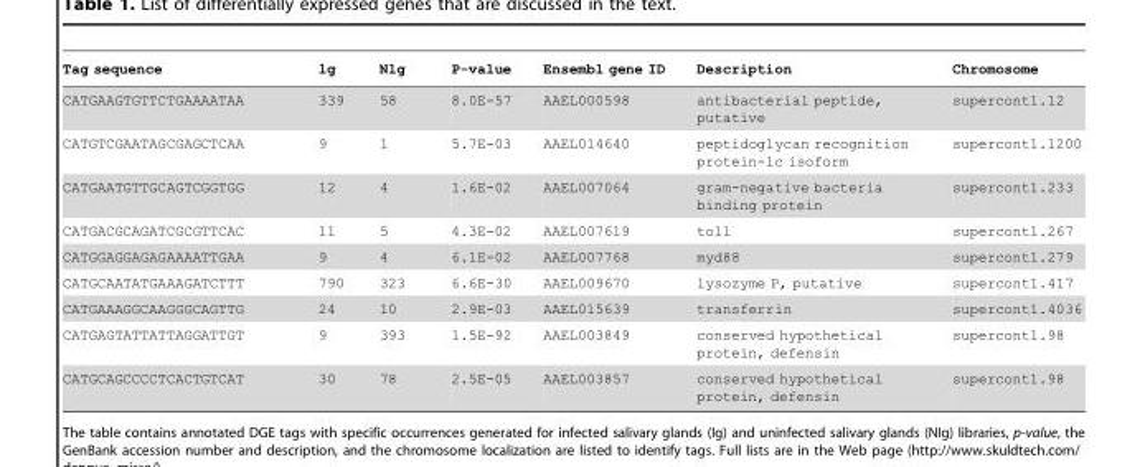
<table><thead><tr><td>Tag sequence</td><td>lg</td><td>Nlg</td><td>P-value</td><td>Ensembl gene ID</td><td>Description</td><td>Chromosome</td></tr></thead><tbody><tr><td>CATGAAGTGTTCTGAAAATAA</td><td>339</td><td>58</td><td>8.0E-57</td><td>AAEL000598</td><td>antibacterial peptide, putative</td><td>supercont1.12</td></tr><tr><td>CATGTCGAATAGCGAGCTCAA</td><td>9</td><td>1</td><td>5.7E-03</td><td>AAEL014640</td><td>peptidoglycan recognition protein-lc isoform</td><td>supercont1.1200</td></tr><tr><td>CATGAATGTTGCAGTCGGTGG</td><td>12</td><td>4</td><td>1.6E-02</td><td>AAEL007064</td><td>gram-negative bacteria binding protein</td><td>supercont1.233</td></tr><tr><td>CATGACGCAGATCGCGTTCAC</td><td>11</td><td>5</td><td>4.3E-02</td><td>AAEL007619</td><td>toll</td><td>supercont1.267</td></tr><tr><td>CATGGAGGAGAGAAAATTGAA</td><td>9</td><td>4</td><td>6.1E-02</td><td>AAEL007768</td><td>myd88</td><td>supercont1.279</td></tr><tr><td>CATGCAATATGAAAGATCTTT</td><td>790</td><td>323</td><td>6.6E-30</td><td>AAEL009670</td><td>lysozyme P, putative</td><td>supercont1.417</td></tr><tr><td>CATGAAAGGCAAGGGCAGTTG</td><td>24</td><td>10</td><td>2.9E-03</td><td>AAEL015639</td><td>transferrin</td><td>supercont1.4036</td></tr><tr><td>CATGAGTATTATTAGGATTGT</td><td>9</td><td>393</td><td>1.5E-92</td><td>AAEL003849</td><td>conserved hypothetical protein, defensin</td><td>supercont1.98</td></tr><tr><td>CATGCAGCCCCTCACTGTCAT</td><td>30</td><td>78</td><td>2.5E-05</td><td>AAEL003857</td><td>conserved hypothetical protein, defensin</td><td>supercont1.98</td></tr></tbody></table>